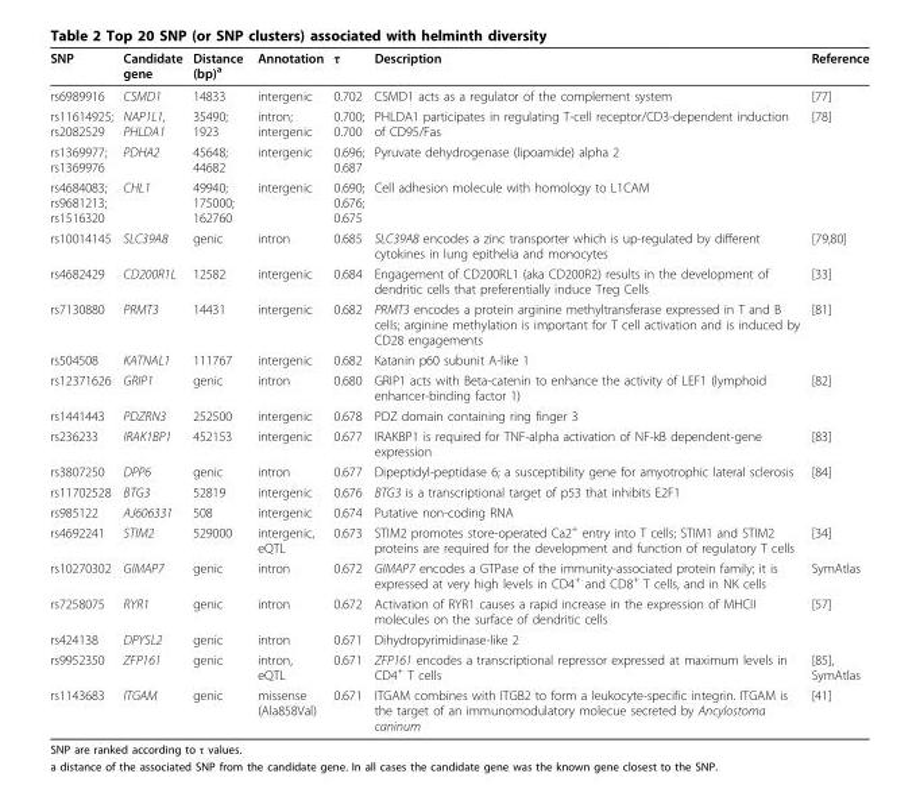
<table><thead><tr><td>SNP</td><td>Candidate gene</td><td>Distance (bp)<sup>a</sup></td><td>Annotation</td><td>τ</td><td>Description</td><td>Reference</td></tr></thead><tbody><tr><td>rs6989916</td><td>CSMD1</td><td>14833</td><td>intergenic</td><td>0.702</td><td>CSMD1 acts as a regulator of the complement system</td><td>[77]</td></tr><tr><td>rs11614925; rs2082529</td><td>NAP1L1, PHLDA1</td><td>35490; 1923</td><td>intron; intergenic</td><td>0.700; 0.700</td><td>PHLDA1 participates in regulating T-cell receptor/CD3-dependent induction of CD95/Fas</td><td>[78]</td></tr><tr><td>rs1369977; rs1369976</td><td>PDHA2</td><td>45648; 44682</td><td>intergenic</td><td>0.696; 0.687</td><td>Pyruvate dehydrogenase (lipoamide) alpha 2</td><td></td></tr><tr><td>rs4684083; rs9681213; rs1516320</td><td>CHL1</td><td>49940; 175000; 162760</td><td>intergenic</td><td>0.690; 0.676; 0.675</td><td>Cell adhesion molecule with homology to L1CAM</td><td></td></tr><tr><td>rs10014145</td><td>SLC39A8</td><td>genic</td><td>intron</td><td>0.685</td><td>SLC39A8 encodes a zinc transporter which is up-regulated by different cytokines in lung epithelia and monocytes</td><td>[79,80]</td></tr><tr><td>rs4682429</td><td>CD200R1L</td><td>12582</td><td>intergenic</td><td>0.684</td><td>Engagement of CD200RL1 (aka CD200R2) results in the development of dendritic cells that preferentially induce Treg Cells</td><td>[33]</td></tr><tr><td>rs7130880</td><td>PRMT3</td><td>14431</td><td>intergenic</td><td>0.682</td><td>PRMT3 encodes a protein arginine methyltransferase expressed in T and B cells; arginine methylation is important for T cell activation and is induced by CD28 engagements</td><td>[81]</td></tr><tr><td>rs504508</td><td>KATNAL1</td><td>111767</td><td>intergenic</td><td>0.682</td><td>Katanin p60 subunit A-like 1</td><td></td></tr><tr><td>rs12371626</td><td>GRIP1</td><td>genic</td><td>intron</td><td>0.680</td><td>GRIP1 acts with Beta-catenin to enhance the activity of LEF1 (lymphoid enhancer-binding factor 1)</td><td>[82]</td></tr><tr><td>rs1441443</td><td>PDZRN3</td><td>252500</td><td>intergenic</td><td>0.678</td><td>PDZ domain containing ring finger 3</td><td></td></tr><tr><td>rs236233</td><td>IRAK1BP1</td><td>452153</td><td>intergenic</td><td>0.677</td><td>IRAKBP1 is required for TNF-alpha activation of NF-kB dependent-gene expression</td><td>[83]</td></tr><tr><td>rs3807250</td><td>DPP6</td><td>genic</td><td>intron</td><td>0.677</td><td>Dipeptidyl-peptidase 6; a susceptibility gene for amyotrophic lateral sclerosis</td><td>[84]</td></tr><tr><td>rs11702528</td><td>BTG3</td><td>52819</td><td>intergenic</td><td>0.676</td><td>BTG3 is a transcriptional target of p53 that inhibits E2F1</td><td></td></tr><tr><td>rs985122</td><td>AJ606331</td><td>508</td><td>intergenic</td><td>0.674</td><td>Putative non-coding RNA</td><td></td></tr><tr><td>rs4692241</td><td>STIM2</td><td>529000</td><td>intergenic, eQTL</td><td>0.673</td><td>STIM2 promotes store-operated Ca2<sup>+</sup> entry into T cells; STIM1 and STIM2 proteins are required for the development and function of regulatory T cells</td><td>[34]</td></tr><tr><td>rs10270302</td><td>GIMAP7</td><td>genic</td><td>intron</td><td>0.672</td><td>GIMAP7 encodes a GTPase of the immunity-associated protein family; it is expressed at very high levels in CD4<sup>+</sup> and CD8<sup>+</sup> T cells, and in NK cells</td><td>SymAtlas</td></tr><tr><td>rs7258075</td><td>RYR1</td><td>genic</td><td>intron</td><td>0.672</td><td>Activation of RYR1 causes a rapid increase in the expression of MHCII molecules on the surface of dendritic cells</td><td>[57]</td></tr><tr><td>rs424138</td><td>DPYSL2</td><td>genic</td><td>intron</td><td>0.671</td><td>Dihydropyrimidinase-like 2</td><td></td></tr><tr><td>rs9952350</td><td>ZFP161</td><td>genic</td><td>intron, eQTL</td><td>0.671</td><td>ZFP161 encodes a transcriptional repressor expressed at maximum levels in CD4<sup>+</sup> T cells</td><td>[85], SymAtlas</td></tr><tr><td>rs1143683</td><td>ITGAM</td><td>genic</td><td>missense (Ala858Val)</td><td>0.671</td><td>ITGAM combines with ITGB2 to form a leukocyte-specific integrin. ITGAM is the target of an immunomodulatory molecue secreted by Ancylostoma caninum</td><td>[41]</td></tr></tbody></table>